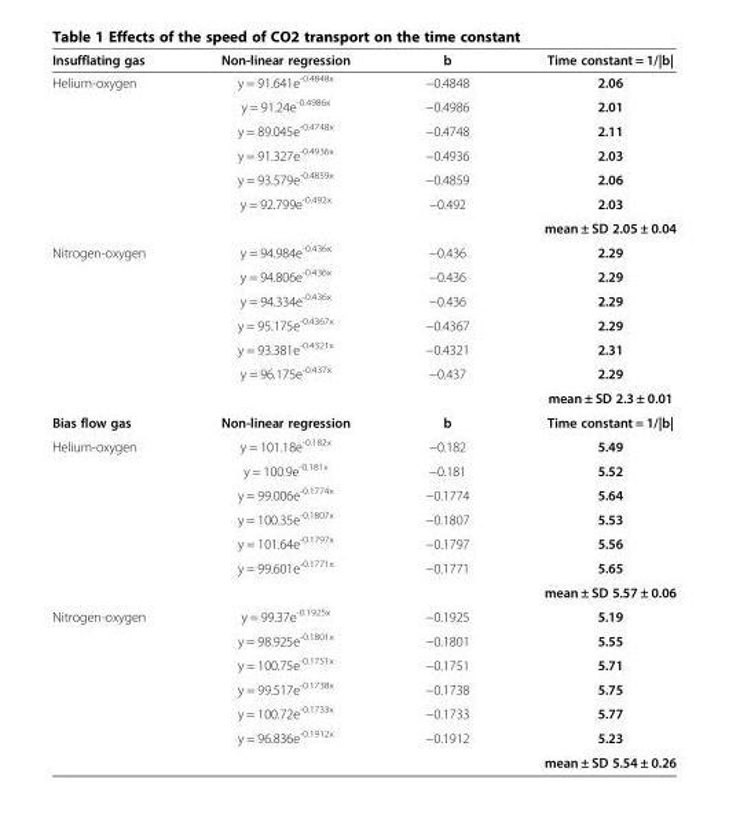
<table><thead><tr><td>Insufflating gas</td><td>Non-linear regression</td><td>b</td><td>Time constant = 1/|b|</td></tr></thead><tbody><tr><td rowspan="6">Helium-oxygen</td><td>y = 91.641e<sup>-0.4848x</sup></td><td>−0.4848</td><td>2.06</td></tr><tr><td>y = 91.24e<sup>-0.4986x</sup></td><td>−0.4986</td><td>2.01</td></tr><tr><td>y = 89.045e<sup>-0.4748x</sup></td><td>−0.4748</td><td>2.11</td></tr><tr><td>y = 91.327e<sup>-0.4936x</sup></td><td>−0.4936</td><td>2.03</td></tr><tr><td>y = 93.579e<sup>-0.4859x</sup></td><td>−0.4859</td><td>2.06</td></tr><tr><td>y = 92.799e<sup>-0.492x</sup></td><td>−0.492</td><td>2.03</td></tr><tr><td colspan="3"></td><td>mean ± SD 2.05 ± 0.04</td></tr><tr><td rowspan="6">Nitrogen-oxygen</td><td>y = 94.984e<sup>-0.436x</sup></td><td>−0.436</td><td>2.29</td></tr><tr><td>y = 94.806e<sup>-0.436x</sup></td><td>−0.436</td><td>2.29</td></tr><tr><td>y = 94.334e<sup>-0.436x</sup></td><td>−0.436</td><td>2.29</td></tr><tr><td>y = 95.175e<sup>-0.4367x</sup></td><td>−0.4367</td><td>2.29</td></tr><tr><td>y = 93.381e<sup>-0.4321x</sup></td><td>−0.4321</td><td>2.31</td></tr><tr><td>y = 96.175e<sup>-0.437x</sup></td><td>−0.437</td><td>2.29</td></tr><tr><td colspan="3"></td><td>mean ± SD 2.3 ± 0.01</td></tr><tr><td>Bias flow gas</td><td>Non-linear regression</td><td>b</td><td>Time constant = 1/|b|</td></tr><tr><td rowspan="6">Helium-oxygen</td><td>y = 101.18e<sup>-0.182x</sup></td><td>−0.182</td><td>5.49</td></tr><tr><td>y = 100.9e<sup>-0.181x</sup></td><td>−0.181</td><td>5.52</td></tr><tr><td>y = 99.006e<sup>-0.1774x</sup></td><td>−0.1774</td><td>5.64</td></tr><tr><td>y = 100.35e<sup>-0.1807x</sup></td><td>−0.1807</td><td>5.53</td></tr><tr><td>y = 101.64e<sup>-0.1797x</sup></td><td>−0.1797</td><td>5.56</td></tr><tr><td>y = 99.601e<sup>-0.1771x</sup></td><td>−0.1771</td><td>5.65</td></tr><tr><td colspan="3"></td><td>mean ± SD 5.57 ± 0.06</td></tr><tr><td rowspan="6">Nitrogen-oxygen</td><td>y = 99.37e<sup>-0.1925x</sup></td><td>−0.1925</td><td>5.19</td></tr><tr><td>y = 98.925e<sup>-0.1801x</sup></td><td>−0.1801</td><td>5.55</td></tr><tr><td>y = 100.75e<sup>-0.1751x</sup></td><td>−0.1751</td><td>5.71</td></tr><tr><td>y = 99.517e<sup>-0.1738x</sup></td><td>−0.1738</td><td>5.75</td></tr><tr><td>y = 100.72e<sup>-0.1733x</sup></td><td>−0.1733</td><td>5.77</td></tr><tr><td>y = 96.836e<sup>-0.1912x</sup></td><td>−0.1912</td><td>5.23</td></tr><tr><td colspan="3"></td><td>mean ± SD 5.54 ± 0.26</td></tr></tbody></table>